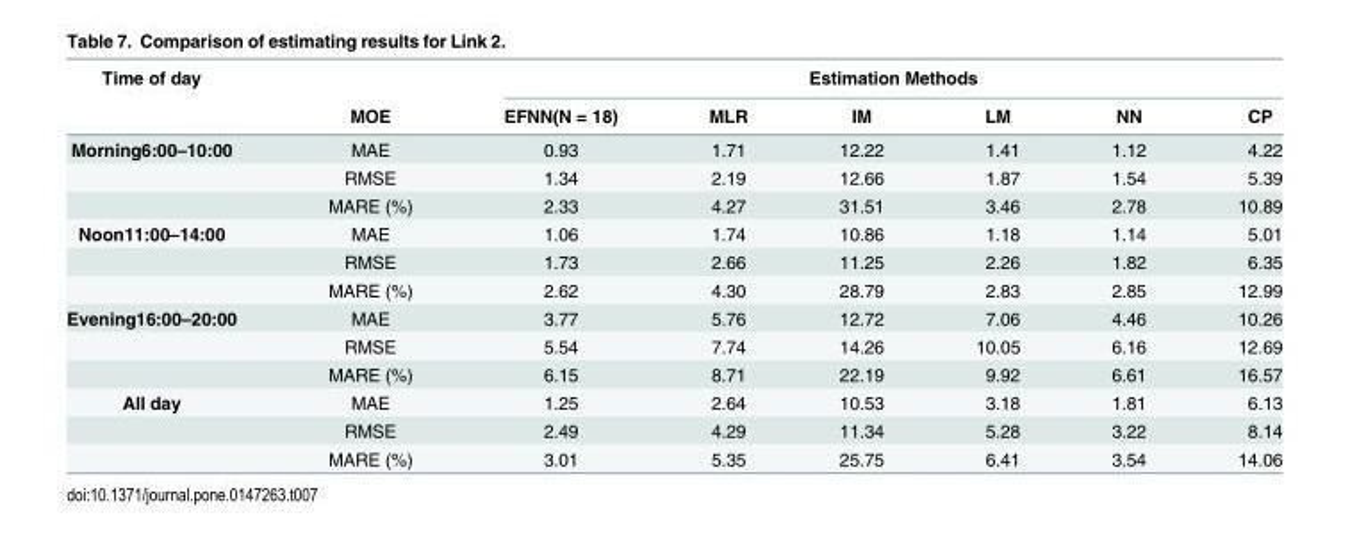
<table><thead><tr><td rowspan="2">Time of day</td><td rowspan="2">MOE</td><td colspan="6">Estimation Methods</td></tr><tr><td>EFNN(N = 18)</td><td>MLR</td><td>IM</td><td>LM</td><td>NN</td><td>CP</td></tr></thead><tbody><tr><td rowspan="3">Morning6:00–10:00</td><td>MAE</td><td>0.93</td><td>1.71</td><td>12.22</td><td>1.41</td><td>1.12</td><td>4.22</td></tr><tr><td>RMSE</td><td>1.34</td><td>2.19</td><td>12.66</td><td>1.87</td><td>1.54</td><td>5.39</td></tr><tr><td>MARE (%)</td><td>2.33</td><td>4.27</td><td>31.51</td><td>3.46</td><td>2.78</td><td>10.89</td></tr><tr><td rowspan="3">Noon11:00–14:00</td><td>MAE</td><td>1.06</td><td>1.74</td><td>10.86</td><td>1.18</td><td>1.14</td><td>5.01</td></tr><tr><td>RMSE</td><td>1.73</td><td>2.66</td><td>11.25</td><td>2.26</td><td>1.82</td><td>6.35</td></tr><tr><td>MARE (%)</td><td>2.62</td><td>4.30</td><td>28.79</td><td>2.83</td><td>2.85</td><td>12.99</td></tr><tr><td rowspan="3">Evening16:00–20:00</td><td>MAE</td><td>3.77</td><td>5.76</td><td>12.72</td><td>7.06</td><td>4.46</td><td>10.26</td></tr><tr><td>RMSE</td><td>5.54</td><td>7.74</td><td>14.26</td><td>10.05</td><td>6.16</td><td>12.69</td></tr><tr><td>MARE (%)</td><td>6.15</td><td>8.71</td><td>22.19</td><td>9.92</td><td>6.61</td><td>16.57</td></tr><tr><td rowspan="3">All day</td><td>MAE</td><td>1.25</td><td>2.64</td><td>10.53</td><td>3.18</td><td>1.81</td><td>6.13</td></tr><tr><td>RMSE</td><td>2.49</td><td>4.29</td><td>11.34</td><td>5.28</td><td>3.22</td><td>8.14</td></tr><tr><td>MARE (%)</td><td>3.01</td><td>5.35</td><td>25.75</td><td>6.41</td><td>3.54</td><td>14.06</td></tr></tbody></table>